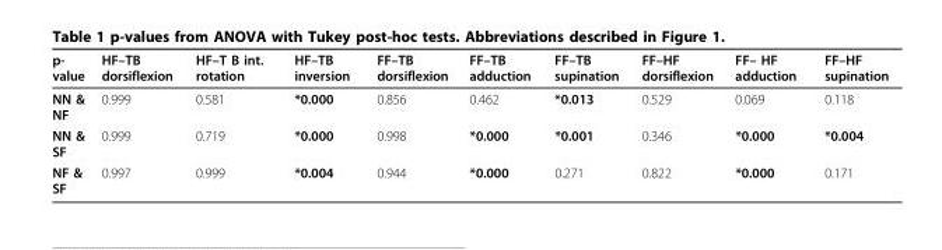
<table><thead><tr><td>p- value</td><td>HF–TB dorsiflexion</td><td>HF–T B int. rotation</td><td>HF–TB inversion</td><td>FF–TB dorsiflexion</td><td>FF–TB adduction</td><td>FF–TB supination</td><td>FF–HF dorsiflexion</td><td>FF– HF adduction</td><td>FF–HF supination</td></tr></thead><tbody><tr><td>NN &amp; NF</td><td>0.999</td><td>0.581</td><td>*0.000</td><td>0.856</td><td>0.462</td><td>*0.013</td><td>0.529</td><td>0.069</td><td>0.118</td></tr><tr><td>NN &amp; SF</td><td>0.999</td><td>0.719</td><td>*0.000</td><td>0.998</td><td>*0.000</td><td>*0.001</td><td>0.346</td><td>*0.000</td><td>*0.004</td></tr><tr><td>NF &amp; SF</td><td>0.997</td><td>0.999</td><td>*0.004</td><td>0.944</td><td>*0.000</td><td>0.271</td><td>0.822</td><td>*0.000</td><td>0.171</td></tr></tbody></table>